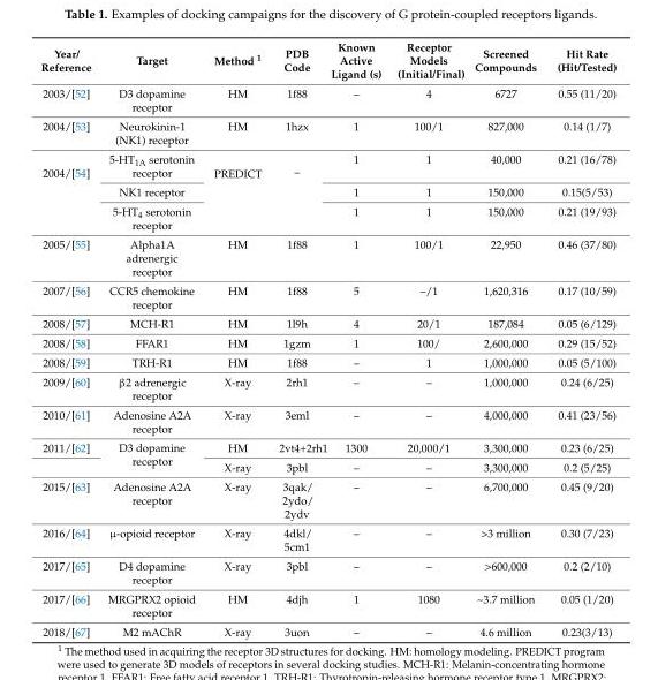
<table><thead><tr><td>Year/ Reference</td><td>Target</td><td>Method <sup>1</sup></td><td>PDB Code</td><td>Known Active Ligand (s)</td><td>Receptor Models (Initial/Final)</td><td>Screened Compounds</td><td>Hit Rate (Hit/Tested)</td></tr></thead><tbody><tr><td>2003/[52]</td><td>D3 dopamine receptor</td><td>HM</td><td>1f88</td><td>–</td><td>4</td><td>6727</td><td>0.55 (11/20)</td></tr><tr><td>2004/[53]</td><td>Neurokinin-1 (NK1) receptor</td><td>HM</td><td>1hzx</td><td>1</td><td>100/1</td><td>827,000</td><td>0.14 (1/7)</td></tr><tr><td rowspan="3">2004/[54]</td><td>5-HT<sub>1A</sub> serotonin receptor</td><td rowspan="3">PREDICT</td><td rowspan="3">–</td><td>1</td><td>1</td><td>40,000</td><td>0.21 (16/78)</td></tr><tr><td>NK1 receptor</td><td>1</td><td>1</td><td>150,000</td><td>0.15(5/53)</td></tr><tr><td>5-HT<sub>4</sub> serotonin receptor</td><td>1</td><td>1</td><td>150,000</td><td>0.21 (19/93)</td></tr><tr><td>2005/[55]</td><td>Alpha1A adrenergic receptor</td><td>HM</td><td>1f88</td><td>1</td><td>100/1</td><td>22,950</td><td>0.46 (37/80)</td></tr><tr><td>2007/[56]</td><td>CCR5 chemokine receptor</td><td>HM</td><td>1f88</td><td>5</td><td>–/1</td><td>1,620,316</td><td>0.17 (10/59)</td></tr><tr><td>2008/[57]</td><td>MCH-R1</td><td>HM</td><td>1l9h</td><td>4</td><td>20/1</td><td>187,084</td><td>0.05 (6/129)</td></tr><tr><td>2008/[58]</td><td>FFAR1</td><td>HM</td><td>1gzm</td><td>1</td><td>100/</td><td>2,600,000</td><td>0.29 (15/52)</td></tr><tr><td>2008/[59]</td><td>TRH-R1</td><td>HM</td><td>1f88</td><td>–</td><td>1</td><td>1,000,000</td><td>0.05 (5/100)</td></tr><tr><td>2009/[60]</td><td>β2 adrenergic receptor</td><td>X-ray</td><td>2rh1</td><td>–</td><td>–</td><td>1,000,000</td><td>0.24 (6/25)</td></tr><tr><td>2010/[61]</td><td>Adenosine A2A receptor</td><td>X-ray</td><td>3eml</td><td>–</td><td>–</td><td>4,000,000</td><td>0.41 (23/56)</td></tr><tr><td rowspan="2">2011/[62]</td><td rowspan="2">D3 dopamine receptor</td><td>HM</td><td>2vt4+2rh1</td><td>1300</td><td>20,000/1</td><td>3,300,000</td><td>0.23 (6/25)</td></tr><tr><td>X-ray</td><td>3pbl</td><td>–</td><td>–</td><td>3,300,000</td><td>0.2 (5/25)</td></tr><tr><td>2015/[63]</td><td>Adenosine A2A receptor</td><td>X-ray</td><td>3qak/ 2ydo/ 2ydv</td><td>–</td><td>–</td><td>6,700,000</td><td>0.45 (9/20)</td></tr><tr><td>2016/[64]</td><td>µ-opioid receptor</td><td>X-ray</td><td>4dkl/ 5cm1</td><td>–</td><td>–</td><td>&gt;3 million</td><td>0.30 (7/23)</td></tr><tr><td>2017/[65]</td><td>D4 dopamine receptor</td><td>X-ray</td><td>3pbl</td><td>–</td><td>–</td><td>&gt;600,000</td><td>0.2 (2/10)</td></tr><tr><td>2017/[66]</td><td>MRGPRX2 opioid receptor</td><td>HM</td><td>4djh</td><td>1</td><td>1080</td><td>~3.7 million</td><td>0.05 (1/20)</td></tr><tr><td>2018/[67]</td><td>M2 mAChR</td><td>X-ray</td><td>3uon</td><td>–</td><td>–</td><td>4.6 million</td><td>0.23(3/13)</td></tr></tbody></table>